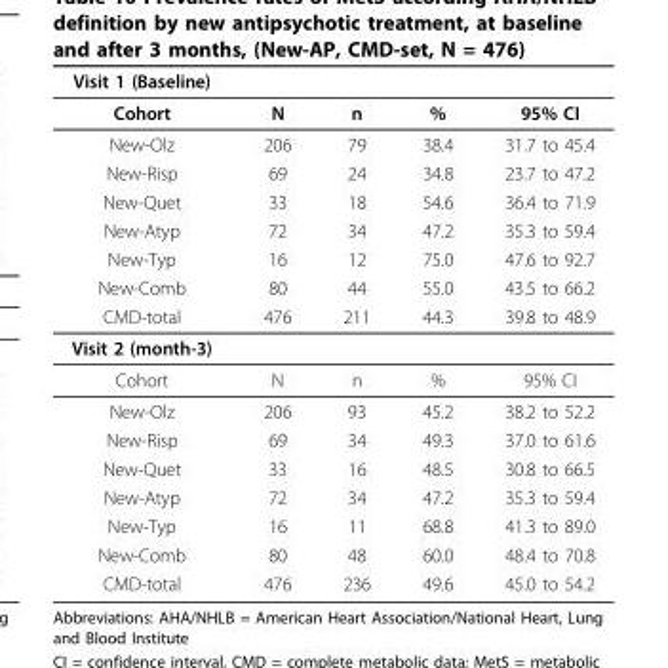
<table><thead><tr><td>Visit 1 (Baseline)</td><td></td><td></td><td></td><td></td></tr></thead><tbody><tr><td>Cohort</td><td>N</td><td>n</td><td>%</td><td>95% CI</td></tr><tr><td>New-Olz</td><td>206</td><td>79</td><td>38.4</td><td>31.7 to 45.4</td></tr><tr><td>New-Risp</td><td>69</td><td>24</td><td>34.8</td><td>23.7 to 47.2</td></tr><tr><td>New-Quet</td><td>33</td><td>18</td><td>54.6</td><td>36.4 to 71.9</td></tr><tr><td>New-Atyp</td><td>72</td><td>34</td><td>47.2</td><td>35.3 to 59.4</td></tr><tr><td>New-Typ</td><td>16</td><td>12</td><td>75.0</td><td>47.6 to 92.7</td></tr><tr><td>New-Comb</td><td>80</td><td>44</td><td>55.0</td><td>43.5 to 66.2</td></tr><tr><td>CMD-total</td><td>476</td><td>211</td><td>44.3</td><td>39.8 to 48.9</td></tr><tr><td colspan="5">Visit 2 (month-3)</td></tr><tr><td>Cohort</td><td>N</td><td>n</td><td>%</td><td>95% CI</td></tr><tr><td>New-Olz</td><td>206</td><td>93</td><td>45.2</td><td>38.2 to 52.2</td></tr><tr><td>New-Risp</td><td>69</td><td>34</td><td>49.3</td><td>37.0 to 61.6</td></tr><tr><td>New-Quet</td><td>33</td><td>16</td><td>48.5</td><td>30.8 to 66.5</td></tr><tr><td>New-Atyp</td><td>72</td><td>34</td><td>47.2</td><td>35.3 to 59.4</td></tr><tr><td>New-Typ</td><td>16</td><td>11</td><td>68.8</td><td>41.3 to 89.0</td></tr><tr><td>New-Comb</td><td>80</td><td>48</td><td>60.0</td><td>48.4 to 70.8</td></tr><tr><td>CMD-total</td><td>476</td><td>236</td><td>49.6</td><td>45.0 to 54.2</td></tr></tbody></table>